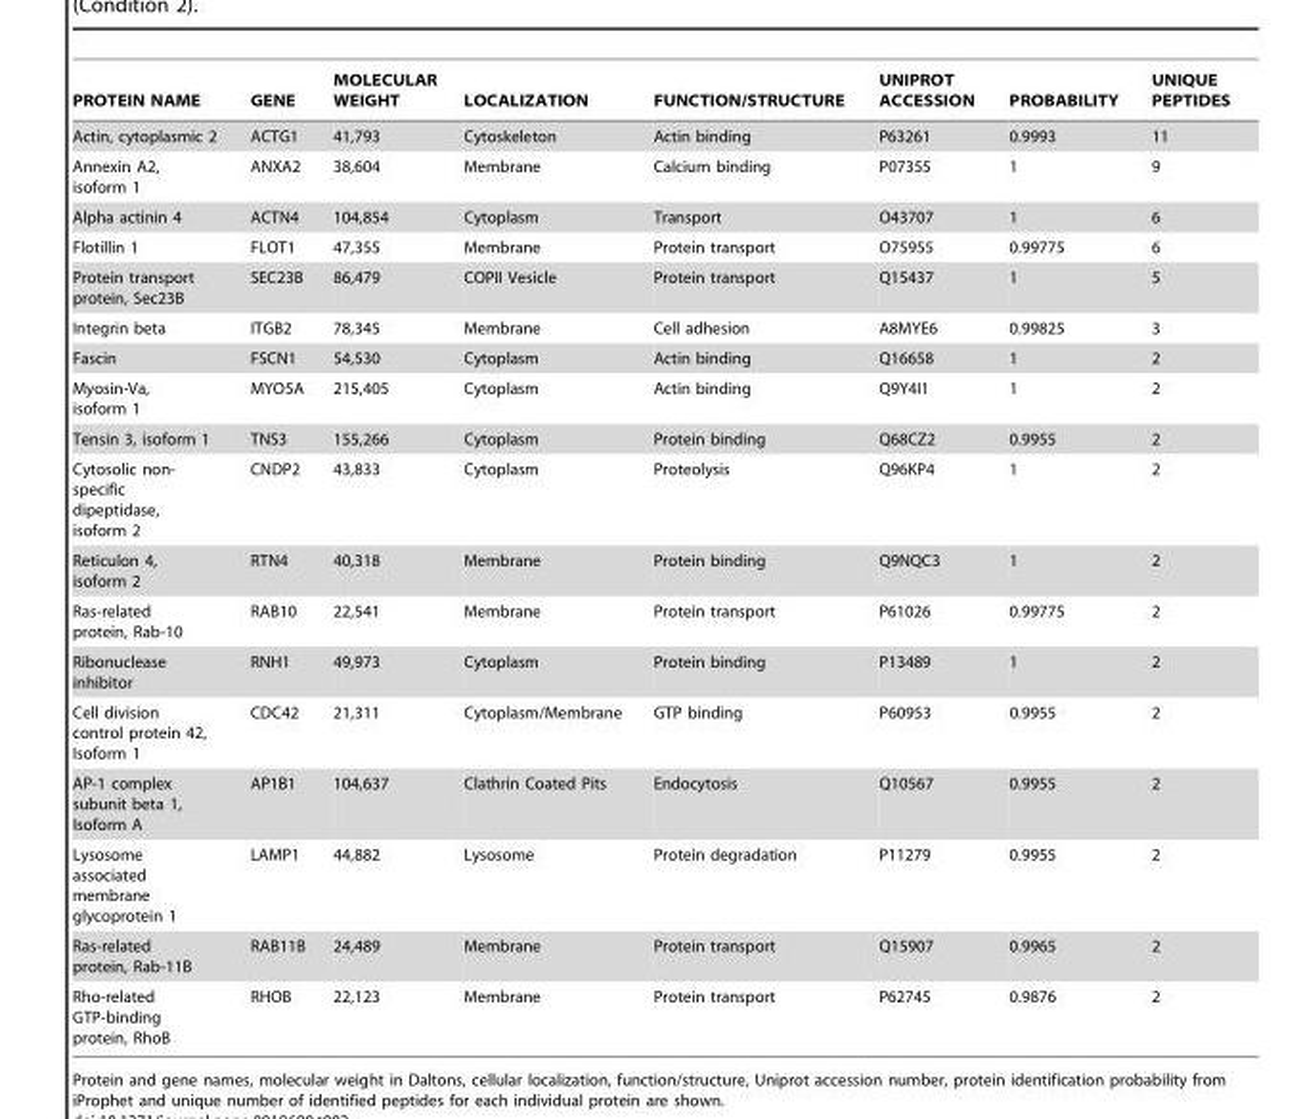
<table><thead><tr><td>PROTEIN NAME</td><td>GENE</td><td>MOLECULAR WEIGHT</td><td>LOCALIZATION</td><td>FUNCTION/STRUCTURE</td><td>UNIPROT ACCESSION</td><td>PROBABILITY</td><td>UNIQUE PEPTIDES</td></tr></thead><tbody><tr><td>Actin, cytoplasmic 2</td><td>ACTG1</td><td>41,793</td><td>Cytoskeleton</td><td>Actin binding</td><td>P63261</td><td>0.9993</td><td>11</td></tr><tr><td>Annexin A2, isoform 1</td><td>ANXA2</td><td>38,604</td><td>Membrane</td><td>Calcium binding</td><td>P07355</td><td>1</td><td>9</td></tr><tr><td>Alpha actinin 4</td><td>ACTN4</td><td>104,854</td><td>Cytoplasm</td><td>Transport</td><td>O43707</td><td>1</td><td>6</td></tr><tr><td>Flotillin 1</td><td>FLOT1</td><td>47,355</td><td>Membrane</td><td>Protein transport</td><td>O75955</td><td>0.99775</td><td>6</td></tr><tr><td>Protein transport protein, Sec23B</td><td>SEC23B</td><td>86,479</td><td>COPII Vesicle</td><td>Protein transport</td><td>Q15437</td><td>1</td><td>5</td></tr><tr><td>Integrin beta</td><td>ITGB2</td><td>78,345</td><td>Membrane</td><td>Cell adhesion</td><td>A8MYE6</td><td>0.99825</td><td>3</td></tr><tr><td>Fascin</td><td>FSCN1</td><td>54,530</td><td>Cytoplasm</td><td>Actin binding</td><td>Q16658</td><td>1</td><td>2</td></tr><tr><td>Myosin-Va, isoform 1</td><td>MYO5A</td><td>215,405</td><td>Cytoplasm</td><td>Actin binding</td><td>Q9Y4I1</td><td>1</td><td>2</td></tr><tr><td>Tensin 3, isoform 1</td><td>TNS3</td><td>155,266</td><td>Cytoplasm</td><td>Protein binding</td><td>Q68CZ2</td><td>0.9955</td><td>2</td></tr><tr><td>Cytosolic non- specific dipeptidase, isoform 2</td><td>CNDP2</td><td>43,833</td><td>Cytoplasm</td><td>Proteolysis</td><td>Q96KP4</td><td>1</td><td>2</td></tr><tr><td>Reticulon 4, isoform 2</td><td>RTN4</td><td>40,318</td><td>Membrane</td><td>Protein binding</td><td>Q9NQC3</td><td>1</td><td>2</td></tr><tr><td>Ras-related protein, Rab-10</td><td>RAB10</td><td>22,541</td><td>Membrane</td><td>Protein transport</td><td>P61026</td><td>0.99775</td><td>2</td></tr><tr><td>Ribonuclease inhibitor</td><td>RNH1</td><td>49,973</td><td>Cytoplasm</td><td>Protein binding</td><td>P13489</td><td>1</td><td>2</td></tr><tr><td>Cell division control protein 42, Isoform 1</td><td>CDC42</td><td>21,311</td><td>Cytoplasm/Membrane</td><td>GTP binding</td><td>P60953</td><td>0.9955</td><td>2</td></tr><tr><td>AP-1 complex subunit beta 1, Isoform A</td><td>AP1B1</td><td>104,637</td><td>Clathrin Coated Pits</td><td>Endocytosis</td><td>Q10567</td><td>0.9955</td><td>2</td></tr><tr><td>Lysosome associated membrane glycoprotein 1</td><td>LAMP1</td><td>44,882</td><td>Lysosome</td><td>Protein degradation</td><td>P11279</td><td>0.9955</td><td>2</td></tr><tr><td>Ras-related protein, Rab-11B</td><td>RAB11B</td><td>24,489</td><td>Membrane</td><td>Protein transport</td><td>Q15907</td><td>0.9965</td><td>2</td></tr><tr><td>Rho-related GTP-binding protein, RhoB</td><td>RHOB</td><td>22,123</td><td>Membrane</td><td>Protein transport</td><td>P62745</td><td>0.9876</td><td>2</td></tr></tbody></table>